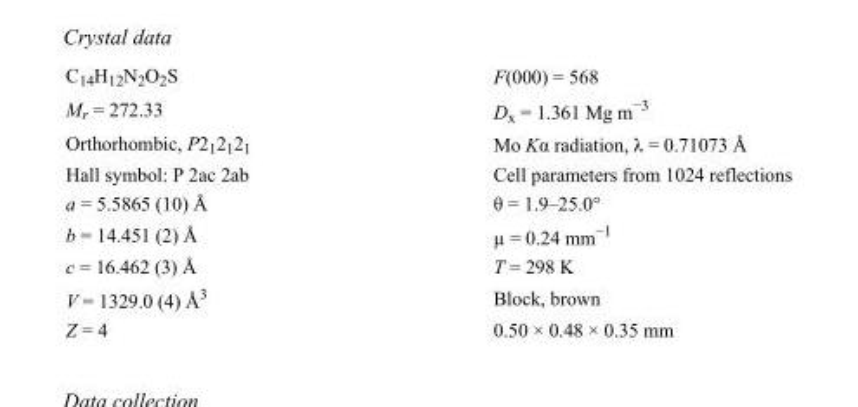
<table><tbody><tr><td>C<sub>14</sub>H<sub>12</sub>N<sub>2</sub>O<sub>2</sub>S</td><td>F(000) = 568</td></tr><tr><td>M<sub>r</sub> = 272.33</td><td>D<sub>x</sub> = 1.361 Mg m<sup>−3</sup></td></tr><tr><td>Orthorhombic, P2<sub>1</sub>2<sub>1</sub>2<sub>1</sub></td><td>Mo Kα radiation, λ = 0.71073 Å</td></tr><tr><td>Hall symbol: P 2ac 2ab</td><td>Cell parameters from 1024 reflections</td></tr><tr><td>a = 5.5865 (10) Å</td><td>θ = 1.9–25.0°</td></tr><tr><td>b = 14.451 (2) Å</td><td>µ = 0.24 mm<sup>−1</sup></td></tr><tr><td>c = 16.462 (3) Å</td><td>T = 298 K</td></tr><tr><td>V = 1329.0 (4) Å<sup>3</sup></td><td>Block, brown</td></tr><tr><td>Z = 4</td><td>0.50 × 0.48 × 0.35 mm</td></tr></tbody></table>